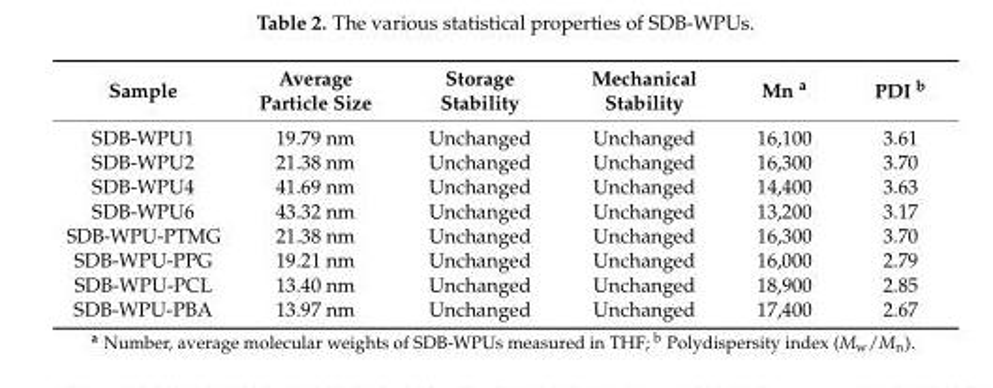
<table><thead><tr><td>Sample</td><td>Average Particle Size</td><td>Storage Stability</td><td>Mechanical Stability</td><td>Mn a</td><td>PDI b</td></tr></thead><tbody><tr><td>SDB-WPU1</td><td>19.79 nm</td><td>Unchanged</td><td>Unchanged</td><td>16,100</td><td>3.61</td></tr><tr><td>SDB-WPU2</td><td>21.38 nm</td><td>Unchanged</td><td>Unchanged</td><td>16,300</td><td>3.70</td></tr><tr><td>SDB-WPU4</td><td>41.69 nm</td><td>Unchanged</td><td>Unchanged</td><td>14,400</td><td>3.63</td></tr><tr><td>SDB-WPU6</td><td>43.32 nm</td><td>Unchanged</td><td>Unchanged</td><td>13,200</td><td>3.17</td></tr><tr><td>SDB-WPU-PTMG</td><td>21.38 nm</td><td>Unchanged</td><td>Unchanged</td><td>16,300</td><td>3.70</td></tr><tr><td>SDB-WPU-PPG</td><td>19.21 nm</td><td>Unchanged</td><td>Unchanged</td><td>16,000</td><td>2.79</td></tr><tr><td>SDB-WPU-PCL</td><td>13.40 nm</td><td>Unchanged</td><td>Unchanged</td><td>18,900</td><td>2.85</td></tr><tr><td>SDB-WPU-PBA</td><td>13.97 nm</td><td>Unchanged</td><td>Unchanged</td><td>17,400</td><td>2.67</td></tr></tbody></table>